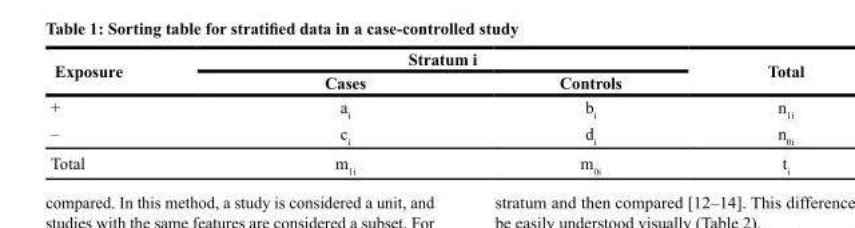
<table><thead><tr><td rowspan="2">Exposure</td><td colspan="2">Stratum i</td><td rowspan="2">Total</td></tr><tr><td>Cases</td><td>Controls</td></tr></thead><tbody><tr><td>+</td><td>a<sub>i</sub></td><td>b<sub>i</sub></td><td>n<sub>1i</sub></td></tr><tr><td>–</td><td>c<sub>i</sub></td><td>d<sub>i</sub></td><td>n<sub>0i</sub></td></tr><tr><td>Total</td><td>m<sub>1i</sub></td><td>m<sub>0i</sub></td><td>t<sub>i</sub></td></tr></tbody></table>